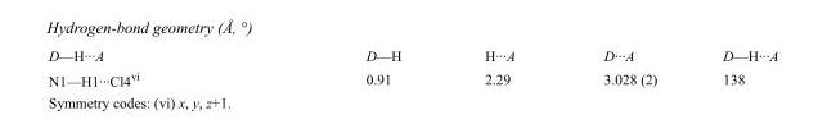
<table><tbody><tr><td>D—H···A</td><td>D—H</td><td>H···A</td><td>D···A</td><td>D—H···A</td></tr><tr><td>N1—H1···Cl4<sup>vi</sup></td><td>0.91</td><td>2.29</td><td>3.028 (2)</td><td>138</td></tr></tbody></table>